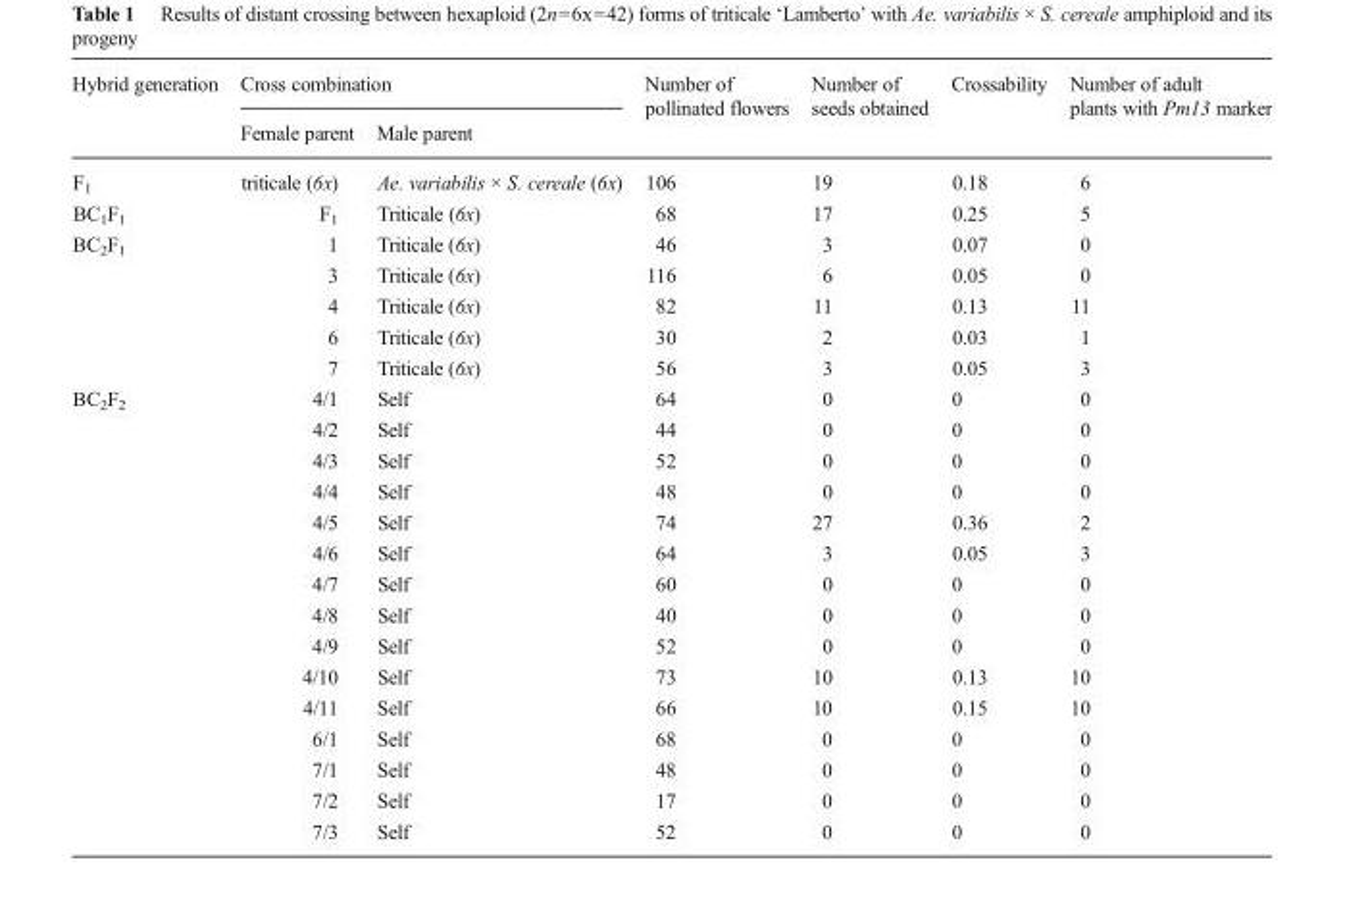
<table><thead><tr><td rowspan="2">Hybrid generation</td><td colspan="2">Cross combination</td><td rowspan="2">Number of pollinated flowers</td><td rowspan="2">Number of seeds obtained</td><td rowspan="2">Crossability</td><td rowspan="2">Number of adult plants with Pm13 marker</td></tr><tr><td>Female parent</td><td>Male parent</td></tr></thead><tbody><tr><td>F<sub>1</sub></td><td>triticale (6x)</td><td>Ae. variabilis × S. cereale (6x)</td><td>106</td><td>19</td><td>0.18</td><td>6</td></tr><tr><td>BC<sub>1</sub>F<sub>1</sub></td><td>F<sub>1</sub></td><td>Triticale (6x)</td><td>68</td><td>17</td><td>0.25</td><td>5</td></tr><tr><td rowspan="5">BC<sub>2</sub>F<sub>1</sub></td><td>1</td><td>Triticale (6x)</td><td>46</td><td>3</td><td>0.07</td><td>0</td></tr><tr><td>3</td><td>Triticale (6x)</td><td>116</td><td>6</td><td>0.05</td><td>0</td></tr><tr><td>4</td><td>Triticale (6x)</td><td>82</td><td>11</td><td>0.13</td><td>11</td></tr><tr><td>6</td><td>Triticale (6x)</td><td>30</td><td>2</td><td>0.03</td><td>1</td></tr><tr><td>7</td><td>Triticale (6x)</td><td>56</td><td>3</td><td>0.05</td><td>3</td></tr><tr><td rowspan="15">BC<sub>2</sub>F<sub>2</sub></td><td>4/1</td><td>Self</td><td>64</td><td>0</td><td>0</td><td>0</td></tr><tr><td>4/2</td><td>Self</td><td>44</td><td>0</td><td>0</td><td>0</td></tr><tr><td>4/3</td><td>Self</td><td>52</td><td>0</td><td>0</td><td>0</td></tr><tr><td>4/4</td><td>Self</td><td>48</td><td>0</td><td>0</td><td>0</td></tr><tr><td>4/5</td><td>Self</td><td>74</td><td>27</td><td>0.36</td><td>2</td></tr><tr><td>4/6</td><td>Self</td><td>64</td><td>3</td><td>0.05</td><td>3</td></tr><tr><td>4/7</td><td>Self</td><td>60</td><td>0</td><td>0</td><td>0</td></tr><tr><td>4/8</td><td>Self</td><td>40</td><td>0</td><td>0</td><td>0</td></tr><tr><td>4/9</td><td>Self</td><td>52</td><td>0</td><td>0</td><td>0</td></tr><tr><td>4/10</td><td>Self</td><td>73</td><td>10</td><td>0.13</td><td>10</td></tr><tr><td>4/11</td><td>Self</td><td>66</td><td>10</td><td>0.15</td><td>10</td></tr><tr><td>6/1</td><td>Self</td><td>68</td><td>0</td><td>0</td><td>0</td></tr><tr><td>7/1</td><td>Self</td><td>48</td><td>0</td><td>0</td><td>0</td></tr><tr><td>7/2</td><td>Self</td><td>17</td><td>0</td><td>0</td><td>0</td></tr><tr><td>7/3</td><td>Self</td><td>52</td><td>0</td><td>0</td><td>0</td></tr></tbody></table>